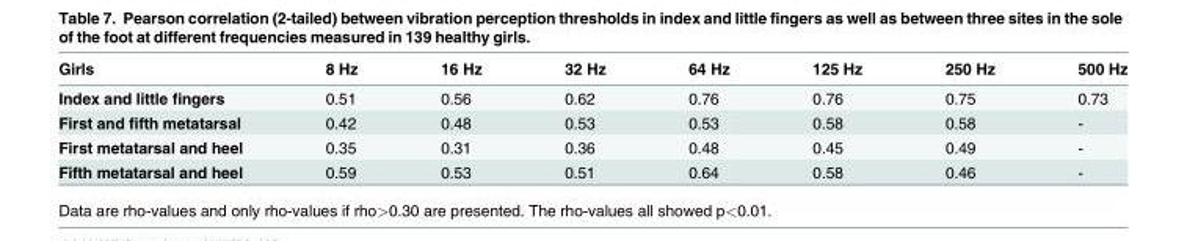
<table><thead><tr><td>Girls</td><td>8 Hz</td><td>16 Hz</td><td>32 Hz</td><td>64 Hz</td><td>125 Hz</td><td>250 Hz</td><td>500 Hz</td></tr></thead><tbody><tr><td>Index and little fingers</td><td>0.51</td><td>0.56</td><td>0.62</td><td>0.76</td><td>0.76</td><td>0.75</td><td>0.73</td></tr><tr><td>First and fifth metatarsal</td><td>0.42</td><td>0.48</td><td>0.53</td><td>0.53</td><td>0.58</td><td>0.58</td><td>-</td></tr><tr><td>First metatarsal and heel</td><td>0.35</td><td>0.31</td><td>0.36</td><td>0.48</td><td>0.45</td><td>0.49</td><td>-</td></tr><tr><td>Fifth metatarsal and heel</td><td>0.59</td><td>0.53</td><td>0.51</td><td>0.64</td><td>0.58</td><td>0.46</td><td>-</td></tr></tbody></table>